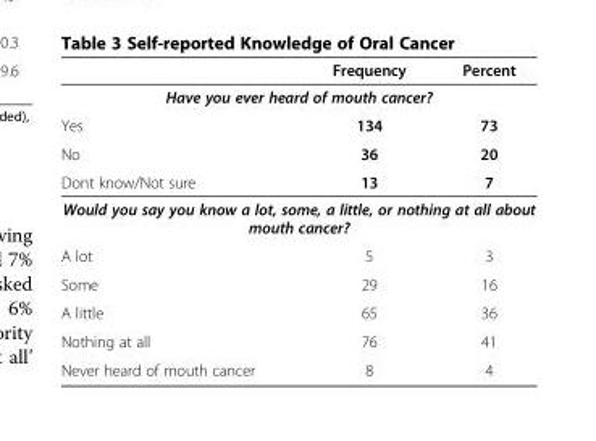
<table><thead><tr><td></td><td>Frequency</td><td>Percent</td></tr></thead><tbody><tr><td colspan="3">Have you ever heard of mouth cancer?</td></tr><tr><td>Yes</td><td>134</td><td>73</td></tr><tr><td>No</td><td>36</td><td>20</td></tr><tr><td>Dont know/Not sure</td><td>13</td><td>7</td></tr><tr><td colspan="3">Would you say you know a lot, some, a little, or nothing at all about mouth cancer?</td></tr><tr><td>A lot</td><td>5</td><td>3</td></tr><tr><td>Some</td><td>29</td><td>16</td></tr><tr><td>A little</td><td>65</td><td>36</td></tr><tr><td>Nothing at all</td><td>76</td><td>41</td></tr><tr><td>Never heard of mouth cancer</td><td>8</td><td>4</td></tr></tbody></table>